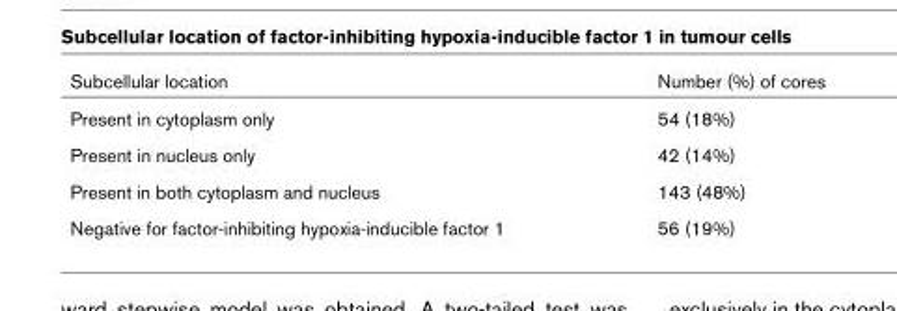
<table><thead><tr><td>Subcellular location</td><td>Number (%) of cores</td></tr></thead><tbody><tr><td>Present in cytoplasm only</td><td>54 (18%)</td></tr><tr><td>Present in nucleus only</td><td>42 (14%)</td></tr><tr><td>Present in both cytoplasm and nucleus</td><td>143 (48%)</td></tr><tr><td>Negative for factor-inhibiting hypoxia-inducible factor 1</td><td>56 (19%)</td></tr></tbody></table>